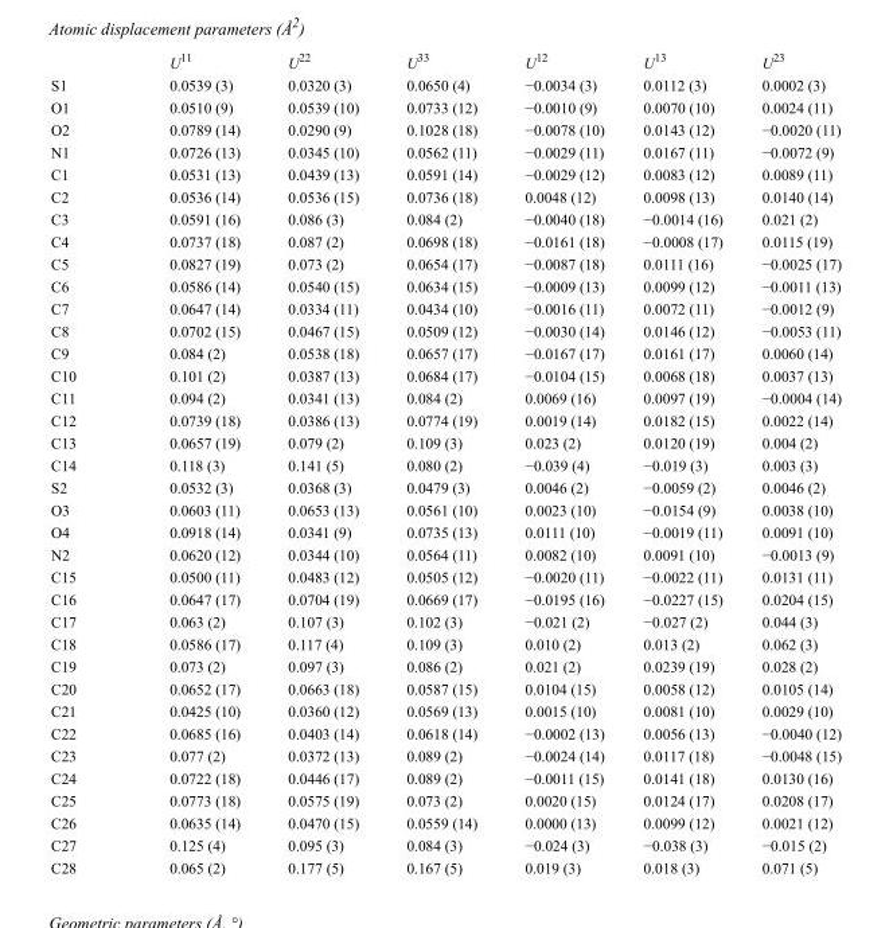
<table><thead><tr><td></td><td>U<sup>11</sup></td><td>U<sup>22</sup></td><td>U<sup>33</sup></td><td>U<sup>12</sup></td><td>U<sup>13</sup></td><td>U<sup>23</sup></td></tr></thead><tbody><tr><td>S1</td><td>0.0539 (3)</td><td>0.0320 (3)</td><td>0.0650 (4)</td><td>−0.0034 (3)</td><td>0.0112 (3)</td><td>0.0002 (3)</td></tr><tr><td>O1</td><td>0.0510 (9)</td><td>0.0539 (10)</td><td>0.0733 (12)</td><td>−0.0010 (9)</td><td>0.0070 (10)</td><td>0.0024 (11)</td></tr><tr><td>O2</td><td>0.0789 (14)</td><td>0.0290 (9)</td><td>0.1028 (18)</td><td>−0.0078 (10)</td><td>0.0143 (12)</td><td>−0.0020 (11)</td></tr><tr><td>N1</td><td>0.0726 (13)</td><td>0.0345 (10)</td><td>0.0562 (11)</td><td>−0.0029 (11)</td><td>0.0167 (11)</td><td>−0.0072 (9)</td></tr><tr><td>C1</td><td>0.0531 (13)</td><td>0.0439 (13)</td><td>0.0591 (14)</td><td>−0.0029 (12)</td><td>0.0083 (12)</td><td>0.0089 (11)</td></tr><tr><td>C2</td><td>0.0536 (14)</td><td>0.0536 (15)</td><td>0.0736 (18)</td><td>0.0048 (12)</td><td>0.0098 (13)</td><td>0.0140 (14)</td></tr><tr><td>C3</td><td>0.0591 (16)</td><td>0.086 (3)</td><td>0.084 (2)</td><td>−0.0040 (18)</td><td>−0.0014 (16)</td><td>0.021 (2)</td></tr><tr><td>C4</td><td>0.0737 (18)</td><td>0.087 (2)</td><td>0.0698 (18)</td><td>−0.0161 (18)</td><td>−0.0008 (17)</td><td>0.0115 (19)</td></tr><tr><td>C5</td><td>0.0827 (19)</td><td>0.073 (2)</td><td>0.0654 (17)</td><td>−0.0087 (18)</td><td>0.0111 (16)</td><td>−0.0025 (17)</td></tr><tr><td>C6</td><td>0.0586 (14)</td><td>0.0540 (15)</td><td>0.0634 (15)</td><td>−0.0009 (13)</td><td>0.0099 (12)</td><td>−0.0011 (13)</td></tr><tr><td>C7</td><td>0.0647 (14)</td><td>0.0334 (11)</td><td>0.0434 (10)</td><td>−0.0016 (11)</td><td>0.0072 (11)</td><td>−0.0012 (9)</td></tr><tr><td>C8</td><td>0.0702 (15)</td><td>0.0467 (15)</td><td>0.0509 (12)</td><td>−0.0030 (14)</td><td>0.0146 (12)</td><td>−0.0053 (11)</td></tr><tr><td>C9</td><td>0.084 (2)</td><td>0.0538 (18)</td><td>0.0657 (17)</td><td>−0.0167 (17)</td><td>0.0161 (17)</td><td>0.0060 (14)</td></tr><tr><td>C10</td><td>0.101 (2)</td><td>0.0387 (13)</td><td>0.0684 (17)</td><td>−0.0104 (15)</td><td>0.0068 (18)</td><td>0.0037 (13)</td></tr><tr><td>C11</td><td>0.094 (2)</td><td>0.0341 (13)</td><td>0.084 (2)</td><td>0.0069 (16)</td><td>0.0097 (19)</td><td>−0.0004 (14)</td></tr><tr><td>C12</td><td>0.0739 (18)</td><td>0.0386 (13)</td><td>0.0774 (19)</td><td>0.0019 (14)</td><td>0.0182 (15)</td><td>0.0022 (14)</td></tr><tr><td>C13</td><td>0.0657 (19)</td><td>0.079 (2)</td><td>0.109 (3)</td><td>0.023 (2)</td><td>0.0120 (19)</td><td>0.004 (2)</td></tr><tr><td>C14</td><td>0.118 (3)</td><td>0.141 (5)</td><td>0.080 (2)</td><td>−0.039 (4)</td><td>−0.019 (3)</td><td>0.003 (3)</td></tr><tr><td>S2</td><td>0.0532 (3)</td><td>0.0368 (3)</td><td>0.0479 (3)</td><td>0.0046 (2)</td><td>−0.0059 (2)</td><td>0.0046 (2)</td></tr><tr><td>O3</td><td>0.0603 (11)</td><td>0.0653 (13)</td><td>0.0561 (10)</td><td>0.0023 (10)</td><td>−0.0154 (9)</td><td>0.0038 (10)</td></tr><tr><td>O4</td><td>0.0918 (14)</td><td>0.0341 (9)</td><td>0.0735 (13)</td><td>0.0111 (10)</td><td>−0.0019 (11)</td><td>0.0091 (10)</td></tr><tr><td>N2</td><td>0.0620 (12)</td><td>0.0344 (10)</td><td>0.0564 (11)</td><td>0.0082 (10)</td><td>0.0091 (10)</td><td>−0.0013 (9)</td></tr><tr><td>C15</td><td>0.0500 (11)</td><td>0.0483 (12)</td><td>0.0505 (12)</td><td>−0.0020 (11)</td><td>−0.0022 (11)</td><td>0.0131 (11)</td></tr><tr><td>C16</td><td>0.0647 (17)</td><td>0.0704 (19)</td><td>0.0669 (17)</td><td>−0.0195 (16)</td><td>−0.0227 (15)</td><td>0.0204 (15)</td></tr><tr><td>C17</td><td>0.063 (2)</td><td>0.107 (3)</td><td>0.102 (3)</td><td>−0.021 (2)</td><td>−0.027 (2)</td><td>0.044 (3)</td></tr><tr><td>C18</td><td>0.0586 (17)</td><td>0.117 (4)</td><td>0.109 (3)</td><td>0.010 (2)</td><td>0.013 (2)</td><td>0.062 (3)</td></tr><tr><td>C19</td><td>0.073 (2)</td><td>0.097 (3)</td><td>0.086 (2)</td><td>0.021 (2)</td><td>0.0239 (19)</td><td>0.028 (2)</td></tr><tr><td>C20</td><td>0.0652 (17)</td><td>0.0663 (18)</td><td>0.0587 (15)</td><td>0.0104 (15)</td><td>0.0058 (12)</td><td>0.0105 (14)</td></tr><tr><td>C21</td><td>0.0425 (10)</td><td>0.0360 (12)</td><td>0.0569 (13)</td><td>0.0015 (10)</td><td>0.0081 (10)</td><td>0.0029 (10)</td></tr><tr><td>C22</td><td>0.0685 (16)</td><td>0.0403 (14)</td><td>0.0618 (14)</td><td>−0.0002 (13)</td><td>0.0056 (13)</td><td>−0.0040 (12)</td></tr><tr><td>C23</td><td>0.077 (2)</td><td>0.0372 (13)</td><td>0.089 (2)</td><td>−0.0024 (14)</td><td>0.0117 (18)</td><td>−0.0048 (15)</td></tr><tr><td>C24</td><td>0.0722 (18)</td><td>0.0446 (17)</td><td>0.089 (2)</td><td>−0.0011 (15)</td><td>0.0141 (18)</td><td>0.0130 (16)</td></tr><tr><td>C25</td><td>0.0773 (18)</td><td>0.0575 (19)</td><td>0.073 (2)</td><td>0.0020 (15)</td><td>0.0124 (17)</td><td>0.0208 (17)</td></tr><tr><td>C26</td><td>0.0635 (14)</td><td>0.0470 (15)</td><td>0.0559 (14)</td><td>0.0000 (13)</td><td>0.0099 (12)</td><td>0.0021 (12)</td></tr><tr><td>C27</td><td>0.125 (4)</td><td>0.095 (3)</td><td>0.084 (3)</td><td>−0.024 (3)</td><td>−0.038 (3)</td><td>−0.015 (2)</td></tr><tr><td>C28</td><td>0.065 (2)</td><td>0.177 (5)</td><td>0.167 (5)</td><td>0.019 (3)</td><td>0.018 (3)</td><td>0.071 (5)</td></tr></tbody></table>